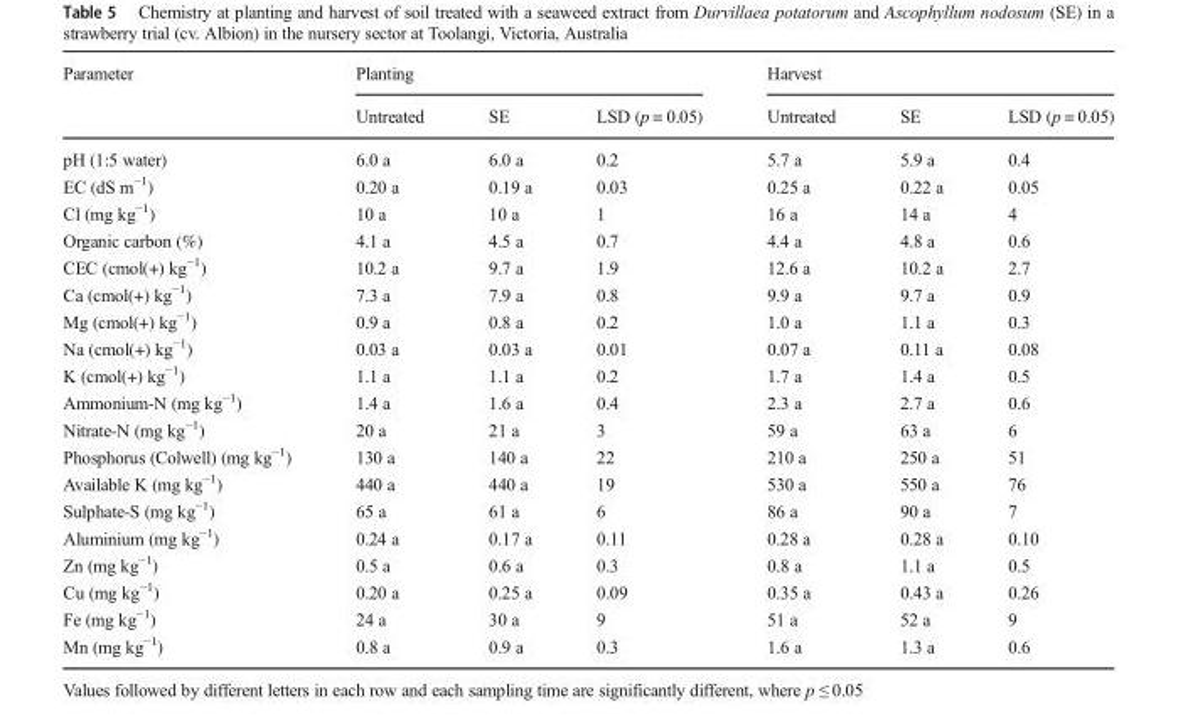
<table><thead><tr><td rowspan="2">Parameter</td><td colspan="3">Planting</td><td colspan="3">Harvest</td></tr><tr><td>Untreated</td><td>SE</td><td>LSD (p = 0.05)</td><td>Untreated</td><td>SE</td><td>LSD (p = 0.05)</td></tr></thead><tbody><tr><td>pH (1:5 water)</td><td>6.0 a</td><td>6.0 a</td><td>0.2</td><td>5.7 a</td><td>5.9 a</td><td>0.4</td></tr><tr><td>EC (dS m<sup>−1</sup>)</td><td>0.20 a</td><td>0.19 a</td><td>0.03</td><td>0.25 a</td><td>0.22 a</td><td>0.05</td></tr><tr><td>Cl (mg kg<sup>−1</sup>)</td><td>10 a</td><td>10 a</td><td>1</td><td>16 a</td><td>14 a</td><td>4</td></tr><tr><td>Organic carbon (%)</td><td>4.1 a</td><td>4.5 a</td><td>0.7</td><td>4.4 a</td><td>4.8 a</td><td>0.6</td></tr><tr><td>CEC (cmol(+) kg<sup>−1</sup>)</td><td>10.2 a</td><td>9.7 a</td><td>1.9</td><td>12.6 a</td><td>10.2 a</td><td>2.7</td></tr><tr><td>Ca (cmol(+) kg<sup>−1</sup>)</td><td>7.3 a</td><td>7.9 a</td><td>0.8</td><td>9.9 a</td><td>9.7 a</td><td>0.9</td></tr><tr><td>Mg (cmol(+) kg<sup>−1</sup>)</td><td>0.9 a</td><td>0.8 a</td><td>0.2</td><td>1.0 a</td><td>1.1 a</td><td>0.3</td></tr><tr><td>Na (cmol(+) kg<sup>−1</sup>)</td><td>0.03 a</td><td>0.03 a</td><td>0.01</td><td>0.07 a</td><td>0.11 a</td><td>0.08</td></tr><tr><td>K (cmol(+) kg<sup>−1</sup>)</td><td>1.1 a</td><td>1.1 a</td><td>0.2</td><td>1.7 a</td><td>1.4 a</td><td>0.5</td></tr><tr><td>Ammonium-N (mg kg<sup>−1</sup>)</td><td>1.4 a</td><td>1.6 a</td><td>0.4</td><td>2.3 a</td><td>2.7 a</td><td>0.6</td></tr><tr><td>Nitrate-N (mg kg<sup>−1</sup>)</td><td>20 a</td><td>21 a</td><td>3</td><td>59 a</td><td>63 a</td><td>6</td></tr><tr><td>Phosphorus (Colwell) (mg kg<sup>−1</sup>)</td><td>130 a</td><td>140 a</td><td>22</td><td>210 a</td><td>250 a</td><td>51</td></tr><tr><td>Available K (mg kg<sup>−1</sup>)</td><td>440 a</td><td>440 a</td><td>19</td><td>530 a</td><td>550 a</td><td>76</td></tr><tr><td>Sulphate-S (mg kg<sup>−1</sup>)</td><td>65 a</td><td>61 a</td><td>6</td><td>86 a</td><td>90 a</td><td>7</td></tr><tr><td>Aluminium (mg kg<sup>−1</sup>)</td><td>0.24 a</td><td>0.17 a</td><td>0.11</td><td>0.28 a</td><td>0.28 a</td><td>0.10</td></tr><tr><td>Zn (mg kg<sup>−1</sup>)</td><td>0.5 a</td><td>0.6 a</td><td>0.3</td><td>0.8 a</td><td>1.1 a</td><td>0.5</td></tr><tr><td>Cu (mg kg<sup>−1</sup>)</td><td>0.20 a</td><td>0.25 a</td><td>0.09</td><td>0.35 a</td><td>0.43 a</td><td>0.26</td></tr><tr><td>Fe (mg kg<sup>−1</sup>)</td><td>24 a</td><td>30 a</td><td>9</td><td>51 a</td><td>52 a</td><td>9</td></tr><tr><td>Mn (mg kg<sup>−1</sup>)</td><td>0.8 a</td><td>0.9 a</td><td>0.3</td><td>1.6 a</td><td>1.3 a</td><td>0.6</td></tr></tbody></table>